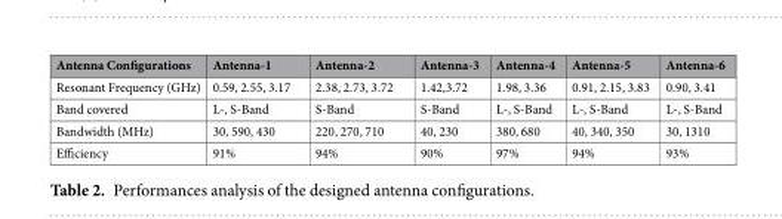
<table><thead><tr><td>Antenna Configurations</td><td>Antenna-1</td><td>Antenna-2</td><td>Antenna-3</td><td>Antenna-4</td><td>Antenna-5</td><td>Antenna-6</td></tr></thead><tbody><tr><td>Resonant Frequency (GHz)</td><td>0.59, 2.55, 3.17</td><td>2.38, 2.73, 3.72</td><td>1.42,3.72</td><td>1.98, 3.36</td><td>0.91, 2.15, 3.83</td><td>0.90, 3.41</td></tr><tr><td>Band covered</td><td>L-, S-Band</td><td>S-Band</td><td>S-Band</td><td>L-, S-Band</td><td>L-, S-Band</td><td>L-, S-Band</td></tr><tr><td>Bandwidth (MHz)</td><td>30, 590, 430</td><td>220, 270, 710</td><td>40, 230</td><td>380, 680</td><td>40, 340, 350</td><td>30, 1310</td></tr><tr><td>Efficiency</td><td>91%</td><td>94%</td><td>90%</td><td>97%</td><td>94%</td><td>93%</td></tr></tbody></table>